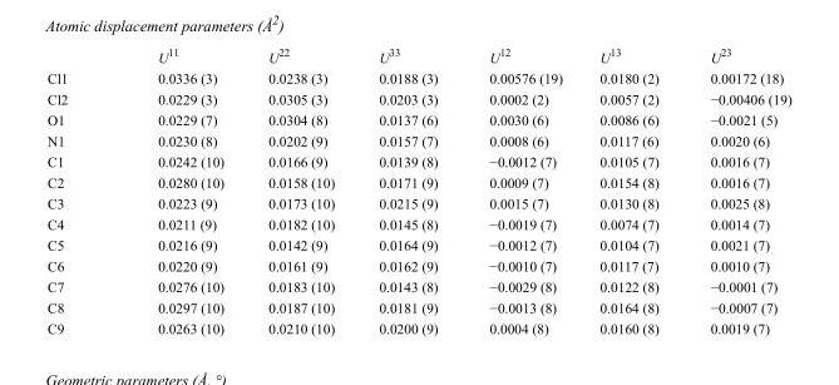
<table><thead><tr><td></td><td>U<sup>11</sup></td><td>U<sup>22</sup></td><td>U<sup>33</sup></td><td>U<sup>12</sup></td><td>U<sup>13</sup></td><td>U<sup>23</sup></td></tr></thead><tbody><tr><td>Cl1</td><td>0.0336 (3)</td><td>0.0238 (3)</td><td>0.0188 (3)</td><td>0.00576 (19)</td><td>0.0180 (2)</td><td>0.00172 (18)</td></tr><tr><td>Cl2</td><td>0.0229 (3)</td><td>0.0305 (3)</td><td>0.0203 (3)</td><td>0.0002 (2)</td><td>0.0057 (2)</td><td>−0.00406 (19)</td></tr><tr><td>O1</td><td>0.0229 (7)</td><td>0.0304 (8)</td><td>0.0137 (6)</td><td>0.0030 (6)</td><td>0.0086 (6)</td><td>−0.0021 (5)</td></tr><tr><td>N1</td><td>0.0230 (8)</td><td>0.0202 (9)</td><td>0.0157 (7)</td><td>0.0008 (6)</td><td>0.0117 (6)</td><td>0.0020 (6)</td></tr><tr><td>C1</td><td>0.0242 (10)</td><td>0.0166 (9)</td><td>0.0139 (8)</td><td>−0.0012 (7)</td><td>0.0105 (7)</td><td>0.0016 (7)</td></tr><tr><td>C2</td><td>0.0280 (10)</td><td>0.0158 (10)</td><td>0.0171 (9)</td><td>0.0009 (7)</td><td>0.0154 (8)</td><td>0.0016 (7)</td></tr><tr><td>C3</td><td>0.0223 (9)</td><td>0.0173 (10)</td><td>0.0215 (9)</td><td>0.0015 (7)</td><td>0.0130 (8)</td><td>0.0025 (8)</td></tr><tr><td>C4</td><td>0.0211 (9)</td><td>0.0182 (10)</td><td>0.0145 (8)</td><td>−0.0019 (7)</td><td>0.0074 (7)</td><td>0.0014 (7)</td></tr><tr><td>C5</td><td>0.0216 (9)</td><td>0.0142 (9)</td><td>0.0164 (9)</td><td>−0.0012 (7)</td><td>0.0104 (7)</td><td>0.0021 (7)</td></tr><tr><td>C6</td><td>0.0220 (9)</td><td>0.0161 (9)</td><td>0.0162 (9)</td><td>−0.0010 (7)</td><td>0.0117 (7)</td><td>0.0010 (7)</td></tr><tr><td>C7</td><td>0.0276 (10)</td><td>0.0183 (10)</td><td>0.0143 (8)</td><td>−0.0029 (8)</td><td>0.0122 (8)</td><td>−0.0001 (7)</td></tr><tr><td>C8</td><td>0.0297 (10)</td><td>0.0187 (10)</td><td>0.0181 (9)</td><td>−0.0013 (8)</td><td>0.0164 (8)</td><td>−0.0007 (7)</td></tr><tr><td>C9</td><td>0.0263 (10)</td><td>0.0210 (10)</td><td>0.0200 (9)</td><td>0.0004 (8)</td><td>0.0160 (8)</td><td>0.0019 (7)</td></tr></tbody></table>